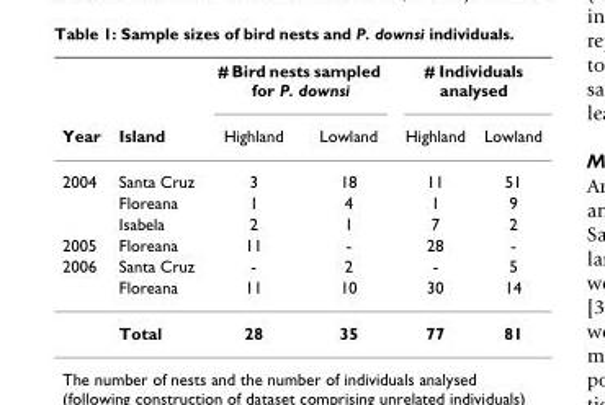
<table><thead><tr><td rowspan="2">Year</td><td rowspan="2">Island</td><td colspan="2"># Bird nests sampled for P. downsi</td><td colspan="2"># Individuals analysed</td></tr><tr><td>Highland</td><td>Lowland</td><td>Highland</td><td>Lowland</td></tr></thead><tbody><tr><td rowspan="3">2004</td><td>Santa Cruz</td><td>3</td><td>18</td><td>11</td><td>51</td></tr><tr><td>Floreana</td><td>1</td><td>4</td><td>1</td><td>9</td></tr><tr><td>Isabela</td><td>2</td><td>1</td><td>7</td><td>2</td></tr><tr><td>2005</td><td>Floreana</td><td>11</td><td>-</td><td>28</td><td>-</td></tr><tr><td rowspan="3">2006</td><td>Santa Cruz</td><td>-</td><td>2</td><td>-</td><td>5</td></tr><tr><td>Floreana</td><td>11</td><td>10</td><td>30</td><td>14</td></tr><tr><td>Total</td><td>28</td><td>35</td><td>77</td><td>81</td></tr></tbody></table>